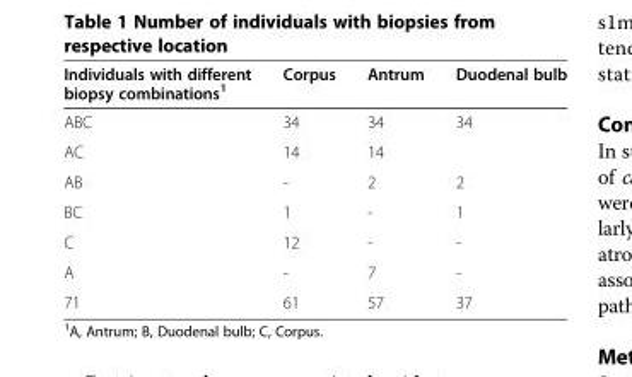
<table><thead><tr><td>Individuals with different biopsy combinations<sup>1</sup></td><td>Corpus</td><td>Antrum</td><td>Duodenal bulb</td></tr></thead><tbody><tr><td>ABC</td><td>34</td><td>34</td><td>34</td></tr><tr><td>AC</td><td>14</td><td>14</td><td></td></tr><tr><td>AB</td><td>-</td><td>2</td><td>2</td></tr><tr><td>BC</td><td>1</td><td>-</td><td>1</td></tr><tr><td>C</td><td>12</td><td>-</td><td>-</td></tr><tr><td>A</td><td>-</td><td>7</td><td>-</td></tr><tr><td>71</td><td>61</td><td>57</td><td>37</td></tr></tbody></table>